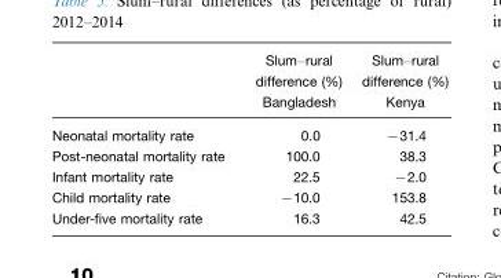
<table><thead><tr><td></td><td>Slum–rural difference (%) Bangladesh</td><td>Slum–rural difference (%) Kenya</td></tr></thead><tbody><tr><td>Neonatal mortality rate</td><td>0.0</td><td>−31.4</td></tr><tr><td>Post-neonatal mortality rate</td><td>100.0</td><td>38.3</td></tr><tr><td>Infant mortality rate</td><td>22.5</td><td>−2.0</td></tr><tr><td>Child mortality rate</td><td>−10.0</td><td>153.8</td></tr><tr><td>Under-five mortality rate</td><td>16.3</td><td>42.5</td></tr></tbody></table>